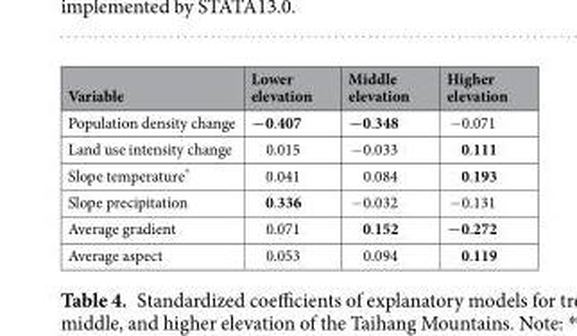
<table><thead><tr><td>Variable</td><td>Lower elevation</td><td>Middle elevation</td><td>Higher elevation</td></tr></thead><tbody><tr><td>Population density change</td><td>−0.407</td><td>−0.348</td><td>−0.071</td></tr><tr><td>Land use intensity change</td><td>0.015</td><td>−0.033</td><td>0.111</td></tr><tr><td>Slope temperature*</td><td>0.041</td><td>0.084</td><td>0.193</td></tr><tr><td>Slope precipitation</td><td>0.336</td><td>−0.032</td><td>−0.131</td></tr><tr><td>Average gradient</td><td>0.071</td><td>0.152</td><td>−0.272</td></tr><tr><td>Average aspect</td><td>0.053</td><td>0.094</td><td>0.119</td></tr></tbody></table>